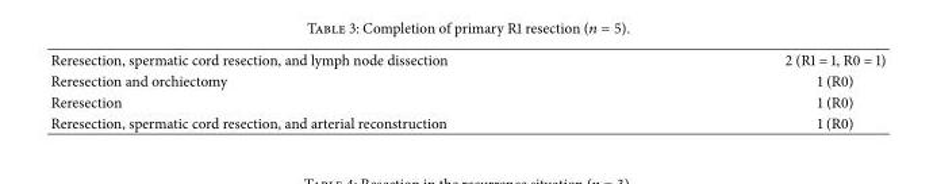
<table><tbody><tr><td>Reresection, spermatic cord resection, and lymph node dissection</td><td>2 (R1 = 1, R0 = 1)</td></tr><tr><td>Reresection and orchiectomy</td><td>1 (R0)</td></tr><tr><td>Reresection</td><td>1 (R0)</td></tr><tr><td>Reresection, spermatic cord resection, and arterial reconstruction</td><td>1 (R0)</td></tr></tbody></table>